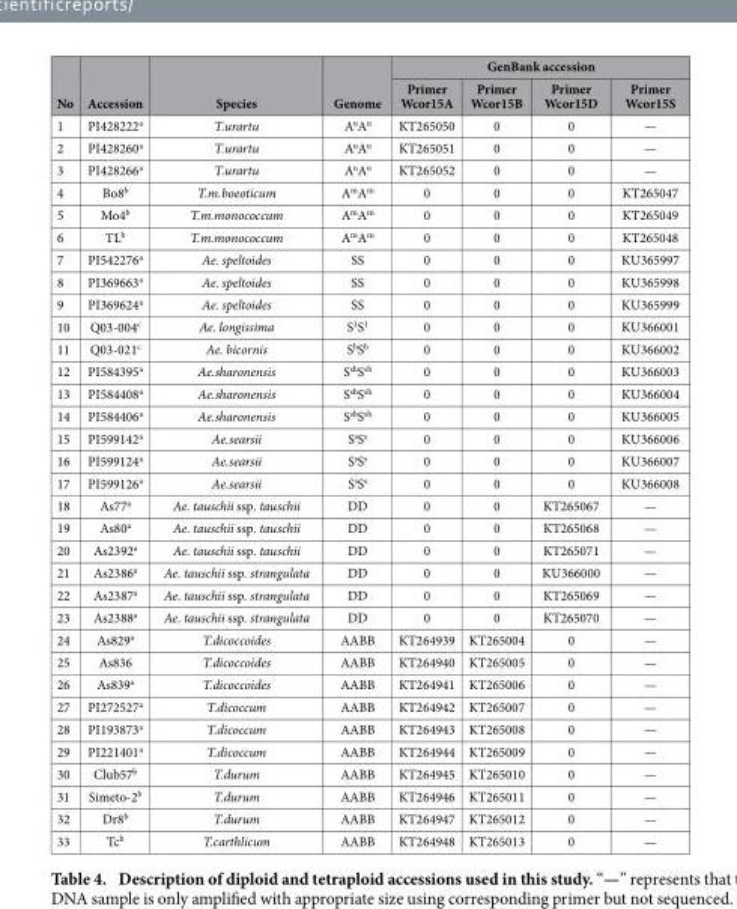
<table><thead><tr><td rowspan="2">No</td><td rowspan="2">Accession</td><td rowspan="2">Species</td><td rowspan="2">Genome</td><td colspan="4">GenBank accession</td></tr><tr><td>Primer Wcor15A</td><td>Primer Wcor15B</td><td>Primer Wcor15D</td><td>Primer Wcor15S</td></tr></thead><tbody><tr><td>1</td><td>PI428222<sup>a</sup></td><td>T.urartu</td><td>A<sup>u</sup>A<sup>u</sup></td><td>KT265050</td><td>0</td><td>0</td><td>—</td></tr><tr><td>2</td><td>PI428260<sup>a</sup></td><td>T.urartu</td><td>A<sup>u</sup>A<sup>u</sup></td><td>KT265051</td><td>0</td><td>0</td><td>—</td></tr><tr><td>3</td><td>PI428266<sup>a</sup></td><td>T.urartu</td><td>A<sup>u</sup>A<sup>u</sup></td><td>KT265052</td><td>0</td><td>0</td><td>—</td></tr><tr><td>4</td><td>Bo8<sup>b</sup></td><td>T.m.boeoticum</td><td>A<sup>m</sup>A<sup>m</sup></td><td>0</td><td>0</td><td>0</td><td>KT265047</td></tr><tr><td>5</td><td>Mo4<sup>b</sup></td><td>T.m.monococcum</td><td>A<sup>m</sup>A<sup>m</sup></td><td>0</td><td>0</td><td>0</td><td>KT265049</td></tr><tr><td>6</td><td>TL<sup>b</sup></td><td>T.m.monococcum</td><td>A<sup>m</sup>A<sup>m</sup></td><td>0</td><td>0</td><td>0</td><td>KT265048</td></tr><tr><td>7</td><td>PI542276<sup>a</sup></td><td>Ae. speltoides</td><td>SS</td><td>0</td><td>0</td><td>0</td><td>KU365997</td></tr><tr><td>8</td><td>PI369663<sup>a</sup></td><td>Ae. speltoides</td><td>SS</td><td>0</td><td>0</td><td>0</td><td>KU365998</td></tr><tr><td>9</td><td>PI369624<sup>a</sup></td><td>Ae. speltoides</td><td>SS</td><td>0</td><td>0</td><td>0</td><td>KU365999</td></tr><tr><td>10</td><td>Q03-004<sup>c</sup></td><td>Ae. longissima</td><td>S<sup>1</sup>S<sup>1</sup></td><td>0</td><td>0</td><td>0</td><td>KU366001</td></tr><tr><td>11</td><td>Q03-021<sup>c</sup></td><td>Ae. bicornis</td><td>S<sup>b</sup>S<sup>b</sup></td><td>0</td><td>0</td><td>0</td><td>KU366002</td></tr><tr><td>12</td><td>PI584395<sup>a</sup></td><td>Ae.sharonensis</td><td>S<sup>sh</sup>S<sup>sh</sup></td><td>0</td><td>0</td><td>0</td><td>KU366003</td></tr><tr><td>13</td><td>PI584408<sup>a</sup></td><td>Ae.sharonensis</td><td>S<sup>sh</sup>S<sup>sh</sup></td><td>0</td><td>0</td><td>0</td><td>KU366004</td></tr><tr><td>14</td><td>PI584406<sup>a</sup></td><td>Ae.sharonensis</td><td>S<sup>sh</sup>S<sup>sh</sup></td><td>0</td><td>0</td><td>0</td><td>KU366005</td></tr><tr><td>15</td><td>PI599142<sup>a</sup></td><td>Ae.searsii</td><td>S<sup>s</sup>S<sup>s</sup></td><td>0</td><td>0</td><td>0</td><td>KU366006</td></tr><tr><td>16</td><td>PI599124<sup>a</sup></td><td>Ae.searsii</td><td>S<sup>s</sup>S<sup>s</sup></td><td>0</td><td>0</td><td>0</td><td>KU366007</td></tr><tr><td>17</td><td>PI599126<sup>a</sup></td><td>Ae.searsii</td><td>S<sup>s</sup>S<sup>s</sup></td><td>0</td><td>0</td><td>0</td><td>KU366008</td></tr><tr><td>18</td><td>As77<sup>a</sup></td><td>Ae. tauschii ssp. tauschii</td><td>DD</td><td>0</td><td>0</td><td>KT265067</td><td>—</td></tr><tr><td>19</td><td>As80<sup>a</sup></td><td>Ae. tauschii ssp. tauschii</td><td>DD</td><td>0</td><td>0</td><td>KT265068</td><td>—</td></tr><tr><td>20</td><td>As2392<sup>a</sup></td><td>Ae. tauschii ssp. tauschii</td><td>DD</td><td>0</td><td>0</td><td>KT265071</td><td>—</td></tr><tr><td>21</td><td>As2386<sup>a</sup></td><td>Ae. tauschii ssp. strangulata</td><td>DD</td><td>0</td><td>0</td><td>KU366000</td><td>—</td></tr><tr><td>22</td><td>As2387<sup>a</sup></td><td>Ae. tauschii ssp. strangulata</td><td>DD</td><td>0</td><td>0</td><td>KT265069</td><td>—</td></tr><tr><td>23</td><td>As2388<sup>a</sup></td><td>Ae. tauschii ssp. strangulata</td><td>DD</td><td>0</td><td>0</td><td>KT265070</td><td>—</td></tr><tr><td>24</td><td>As829<sup>a</sup></td><td>T.dicoccoides</td><td>AABB</td><td>KT264939</td><td>KT265004</td><td>0</td><td>—</td></tr><tr><td>25</td><td>As836</td><td>T.dicoccoides</td><td>AABB</td><td>KT264940</td><td>KT265005</td><td>0</td><td>—</td></tr><tr><td>26</td><td>As839<sup>a</sup></td><td>T.dicoccoides</td><td>AABB</td><td>KT264941</td><td>KT265006</td><td>0</td><td>—</td></tr><tr><td>27</td><td>PI272527<sup>a</sup></td><td>T.dicoccum</td><td>AABB</td><td>KT264942</td><td>KT265007</td><td>0</td><td>—</td></tr><tr><td>28</td><td>PI193873<sup>a</sup></td><td>T.dicoccum</td><td>AABB</td><td>KT264943</td><td>KT265008</td><td>0</td><td>—</td></tr><tr><td>29</td><td>PI221401<sup>a</sup></td><td>T.dicoccum</td><td>AABB</td><td>KT264944</td><td>KT265009</td><td>0</td><td>—</td></tr><tr><td>30</td><td>Club57<sup>b</sup></td><td>T.durum</td><td>AABB</td><td>KT264945</td><td>KT265010</td><td>0</td><td>—</td></tr><tr><td>31</td><td>Simeto-2<sup>b</sup></td><td>T.durum</td><td>AABB</td><td>KT264946</td><td>KT265011</td><td>0</td><td>—</td></tr><tr><td>32</td><td>Dr8<sup>b</sup></td><td>T.durum</td><td>AABB</td><td>KT264947</td><td>KT265012</td><td>0</td><td>—</td></tr><tr><td>33</td><td>Tc<sup>b</sup></td><td>T.carthlicum</td><td>AABB</td><td>KT264948</td><td>KT265013</td><td>0</td><td>—</td></tr></tbody></table>